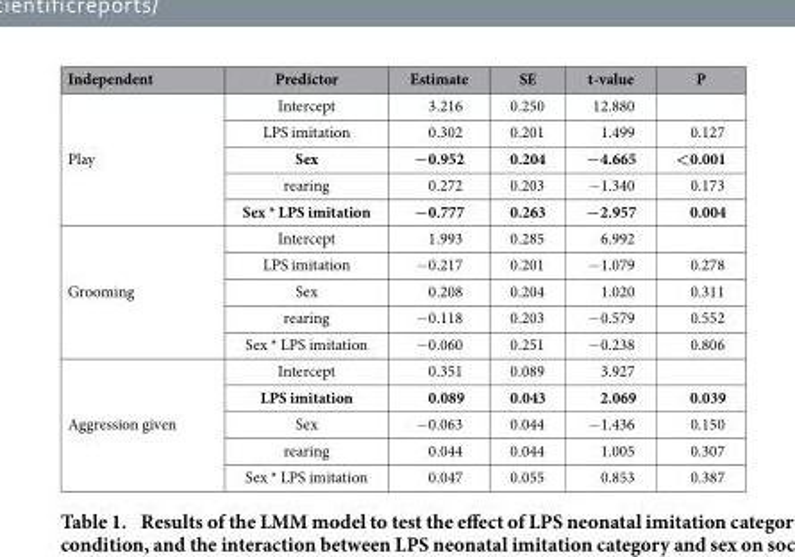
<table><thead><tr><td>Independent</td><td>Predictor</td><td>Estimate</td><td>SE</td><td>t-value</td><td>P</td></tr></thead><tbody><tr><td rowspan="5">Play</td><td>Intercept</td><td>3.216</td><td>0.250</td><td>12.880</td><td></td></tr><tr><td>LPS imitation</td><td>0.302</td><td>0.201</td><td>1.499</td><td>0.127</td></tr><tr><td>Sex</td><td>−0.952</td><td>0.204</td><td>−4.665</td><td>&lt;0.001</td></tr><tr><td>rearing</td><td>0.272</td><td>0.203</td><td>− 1.340</td><td>0.173</td></tr><tr><td>Sex * LPS imitation</td><td>−0.777</td><td>0.263</td><td>−2.957</td><td>0.004</td></tr><tr><td rowspan="5">Grooming</td><td>Intercept</td><td>1.993</td><td>0.285</td><td>6.992</td><td></td></tr><tr><td>LPS imitation</td><td>− 0.217</td><td>0.201</td><td>− 1.079</td><td>0.278</td></tr><tr><td>Sex</td><td>0.208</td><td>0.204</td><td>1.020</td><td>0.311</td></tr><tr><td>rearing</td><td>− 0.118</td><td>0.203</td><td>− 0.579</td><td>0.552</td></tr><tr><td>Sex * LPS imitation</td><td>− 0.060</td><td>0.251</td><td>− 0.238</td><td>0.806</td></tr><tr><td rowspan="5">Aggression given</td><td>Intercept</td><td>0.351</td><td>0.089</td><td>3.927</td><td></td></tr><tr><td>LPS imitation</td><td>0.089</td><td>0.043</td><td>2.069</td><td>0.039</td></tr><tr><td>Sex</td><td>− 0.063</td><td>0.044</td><td>− 1.436</td><td>0.150</td></tr><tr><td>rearing</td><td>0.044</td><td>0.044</td><td>1.005</td><td>0.307</td></tr><tr><td>Sex * LPS imitation</td><td>0.047</td><td>0.055</td><td>0.853</td><td>0.387</td></tr></tbody></table>